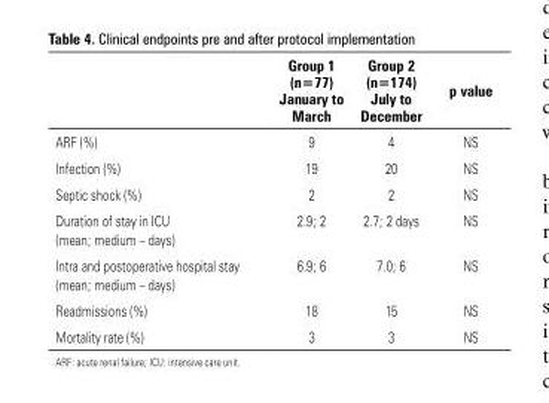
<table><thead><tr><td></td><td>Group 1 (n=77) January to March</td><td>Group 2 (n=174) July to December</td><td>p value</td></tr></thead><tbody><tr><td>ARF (%)</td><td>9</td><td>4</td><td>NS</td></tr><tr><td>Infection (%)</td><td>19</td><td>20</td><td>NS</td></tr><tr><td>Septic shock (%)</td><td>2</td><td>2</td><td>NS</td></tr><tr><td>Duration of stay in ICU (mean; medium – days)</td><td>2.9; 2</td><td>2.7; 2 days</td><td>NS</td></tr><tr><td>Intra and postoperative hospital stay (mean; medium – days)</td><td>6.9; 6</td><td>7.0; 6</td><td>NS</td></tr><tr><td>Readmissions (%)</td><td>18</td><td>15</td><td>NS</td></tr><tr><td>Mortality rate (%)</td><td>3</td><td>3</td><td>NS</td></tr></tbody></table>